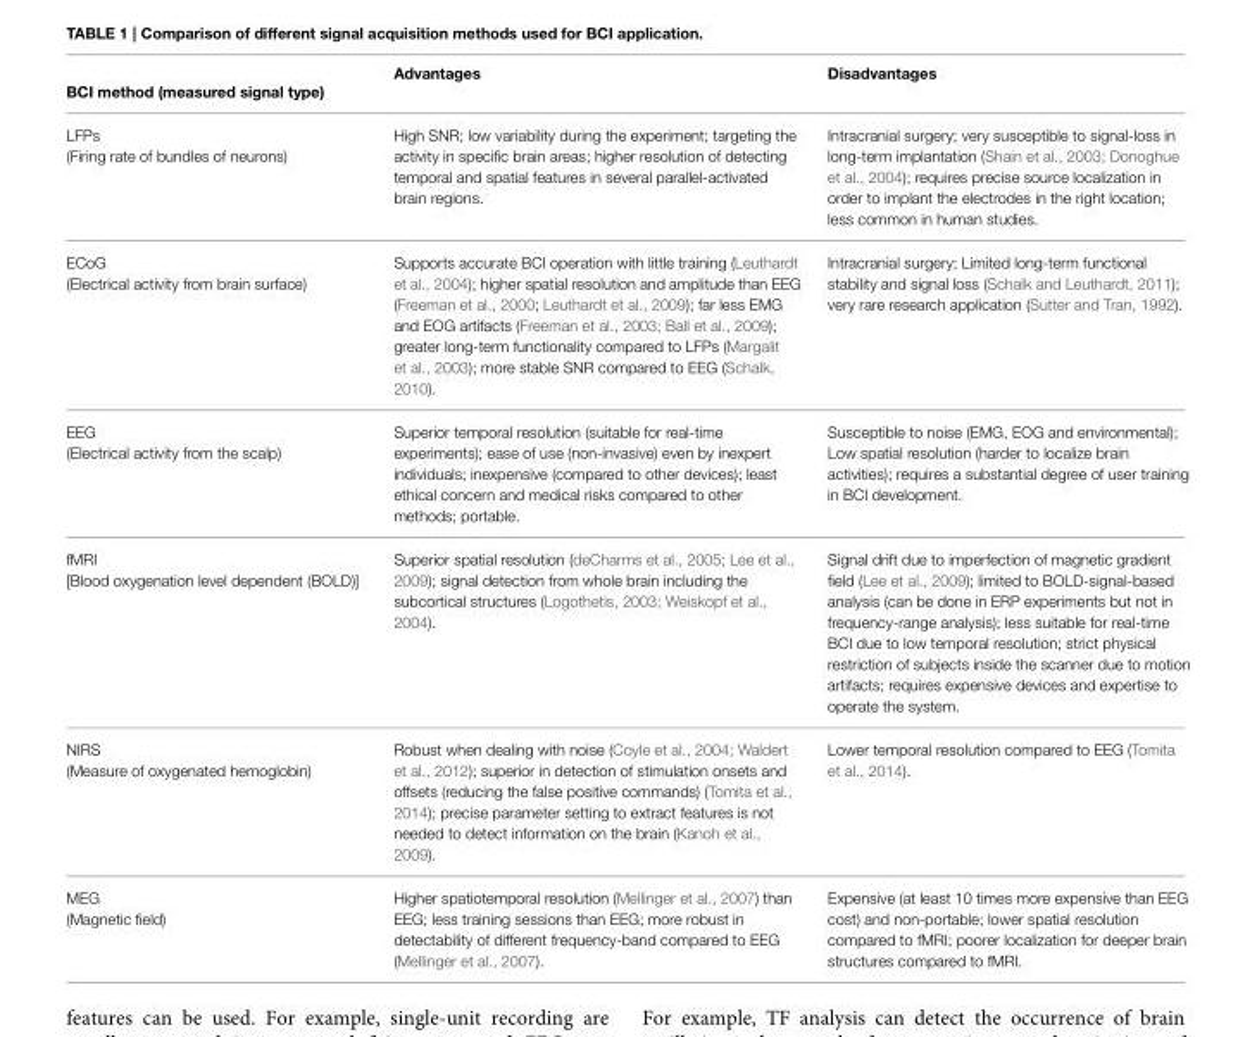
<table><thead><tr><td>BCI method (measured signal type)</td><td>Advantages</td><td>Disadvantages</td></tr></thead><tbody><tr><td>LFPs (Firing rate of bundles of neurons)</td><td>High SNR; low variability during the experiment; targeting the activity in specific brain areas; higher resolution of detecting temporal and spatial features in several parallel-activated brain regions.</td><td>Intracranial surgery; very susceptible to signal-loss in long-term implantation (Shain et al., 2003; Donoghue et al., 2004); requires precise source localization in order to implant the electrodes in the right location; less common in human studies.</td></tr><tr><td>ECoG (Electrical activity from brain surface)</td><td>Supports accurate BCI operation with little training (Leuthardt et al., 2004); higher spatial resolution and amplitude than EEG (Freeman et al., 2000; Leuthardt et al., 2009); far less EMG and EOG artifacts (Freeman et al., 2003; Ball et al., 2009); greater long-term functionality compared to LFPs (Margalit et al., 2003); more stable SNR compared to EEG (Schalk, 2010).</td><td>Intracranial surgery; Limited long-term functional stability and signal loss (Schalk and Leuthardt, 2011); very rare research application (Sutter and Tran, 1992).</td></tr><tr><td>EEG (Electrical activity from the scalp)</td><td>Superior temporal resolution (suitable for real-time experiments); ease of use (non-invasive) even by inexpert individuals; inexpensive (compared to other devices); least ethical concern and medical risks compared to other methods; portable.</td><td>Susceptible to noise (EMG, EOG and environmental); Low spatial resolution (harder to localize brain activities); requires a substantial degree of user training in BCI development.</td></tr><tr><td>fMRI [Blood oxygenation level dependent (BOLD)]</td><td>Superior spatial resolution (deCharms et al., 2005; Lee et al., 2009); signal detection from whole brain including the subcortical structures (Logothetis, 2003; Weiskopf et al., 2004).</td><td>Signal drift due to imperfection of magnetic gradient field (Lee et al., 2009); limited to BOLD-signal-based analysis (can be done in ERP experiments but not in frequency-range analysis); less suitable for real-time BCI due to low temporal resolution; strict physical restriction of subjects inside the scanner due to motion artifacts; requires expensive devices and expertise to operate the system.</td></tr><tr><td>NIRS (Measure of oxygenated hemoglobin)</td><td>Robust when dealing with noise (Coyle et al., 2004; Waldert et al., 2012); superior in detection of stimulation onsets and offsets (reducing the false positive commands) (Tomita et al., 2014); precise parameter setting to extract features is not needed to detect information on the brain (Kanoh et al., 2009).</td><td>Lower temporal resolution compared to EEG (Tomita et al., 2014).</td></tr><tr><td>MEG (Magnetic field)</td><td>Higher spatiotemporal resolution (Mellinger et al., 2007) than EEG; less training sessions than EEG; more robust in detectability of different frequency-band compared to EEG (Mellinger et al., 2007).</td><td>Expensive (at least 10 times more expensive than EEG cost) and non-portable; lower spatial resolution compared to fMRI; poorer localization for deeper brain structures compared to fMRI.</td></tr></tbody></table>